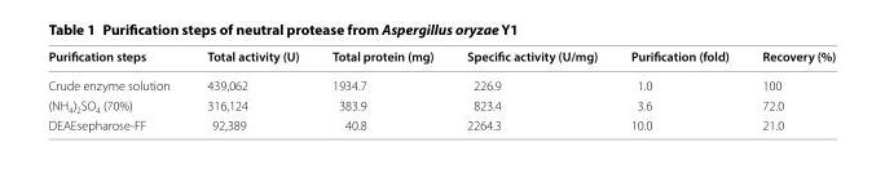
<table><thead><tr><td>Purification steps</td><td>Total activity (U)</td><td>Total protein (mg)</td><td>Specific activity (U/mg)</td><td>Purification (fold)</td><td>Recovery (%)</td></tr></thead><tbody><tr><td>Crude enzyme solution</td><td>439,062</td><td>1934.7</td><td>226.9</td><td>1.0</td><td>100</td></tr><tr><td>(NH<sub>4</sub>)<sub>2</sub>SO<sub>4</sub> (70%)</td><td>316,124</td><td>383.9</td><td>823.4</td><td>3.6</td><td>72.0</td></tr><tr><td>DEAEsepharose‑FF</td><td>92,389</td><td>40.8</td><td>2264.3</td><td>10.0</td><td>21.0</td></tr></tbody></table>